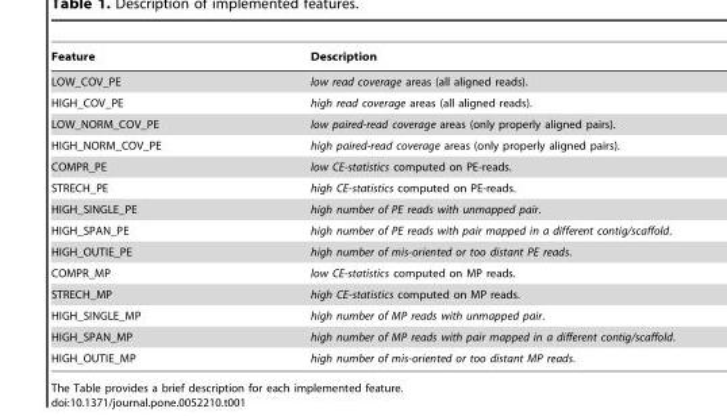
<table><thead><tr><td>Feature</td><td>Description</td></tr></thead><tbody><tr><td>LOW_COV_PE</td><td>low read coverage areas (all aligned reads).</td></tr><tr><td>HIGH_COV_PE</td><td>high read coverage areas (all aligned reads).</td></tr><tr><td>LOW_NORM_COV_PE</td><td>low paired-read coverage areas (only properly aligned pairs).</td></tr><tr><td>HIGH_NORM_COV_PE</td><td>high paired-read coverage areas (only properly aligned pairs).</td></tr><tr><td>COMPR_PE</td><td>low CE-statistics computed on PE-reads.</td></tr><tr><td>STRECH_PE</td><td>high CE-statistics computed on PE-reads.</td></tr><tr><td>HIGH_SINGLE_PE</td><td>high number of PE reads with unmapped pair.</td></tr><tr><td>HIGH_SPAN_PE</td><td>high number of PE reads with pair mapped in a different contig/scaffold.</td></tr><tr><td>HIGH_OUTIE_PE</td><td>high number of mis-oriented or too distant PE reads.</td></tr><tr><td>COMPR_MP</td><td>low CE-statistics computed on MP reads.</td></tr><tr><td>STRECH_MP</td><td>high CE-statistics computed on MP reads.</td></tr><tr><td>HIGH_SINGLE_MP</td><td>high number of MP reads with unmapped pair.</td></tr><tr><td>HIGH_SPAN_MP</td><td>high number of MP reads with pair mapped in a different contig/scaffold.</td></tr><tr><td>HIGH_OUTIE_MP</td><td>high number of mis-oriented or too distant MP reads.</td></tr></tbody></table>